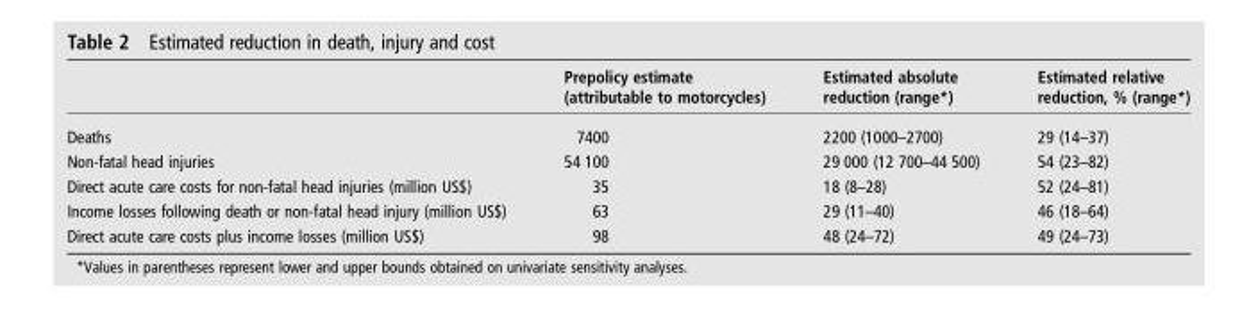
<table><thead><tr><td></td><td>Prepolicy estimate (attributable to motorcycles)</td><td>Estimated absolute reduction (range*)</td><td>Estimated relative reduction, % (range*)</td></tr></thead><tbody><tr><td>Deaths</td><td>7400</td><td>2200 (1000–2700)</td><td>29 (14–37)</td></tr><tr><td>Non-fatal head injuries</td><td>54 100</td><td>29 000 (12 700–44 500)</td><td>54 (23–82)</td></tr><tr><td>Direct acute care costs for non-fatal head injuries (million US$)</td><td>35</td><td>18 (8–28)</td><td>52 (24–81)</td></tr><tr><td>Income losses following death or non-fatal head injury (million US$)</td><td>63</td><td>29 (11–40)</td><td>46 (18–64)</td></tr><tr><td>Direct acute care costs plus income losses (million US$)</td><td>98</td><td>48 (24–72)</td><td>49 (24–73)</td></tr></tbody></table>